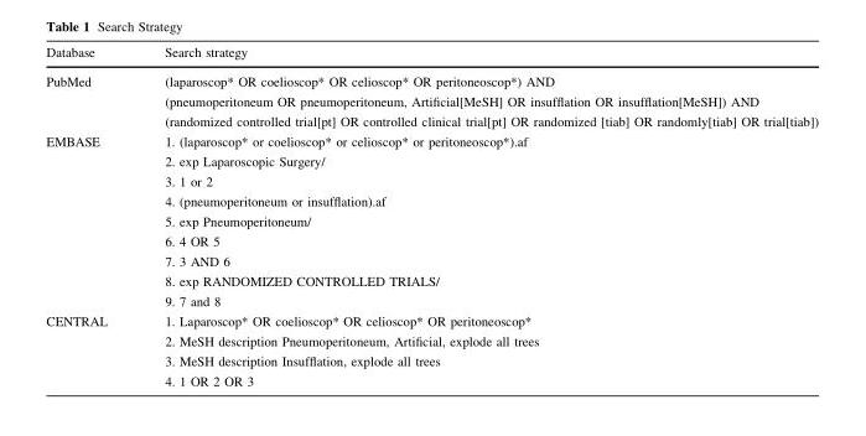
<table><thead><tr><td>Database</td><td>Search strategy</td></tr></thead><tbody><tr><td>PubMed</td><td>(laparoscop* OR coelioscop* OR celioscop* OR peritoneoscop*) AND (pneumoperitoneum OR pneumoperitoneum, Artificial[MeSH] OR insufflation OR insufflation[MeSH]) AND (randomized controlled trial[pt] OR controlled clinical trial[pt] OR randomized [tiab] OR randomly[tiab] OR trial[tiab])</td></tr><tr><td>EMBASE</td><td>1. (laparoscop* or coelioscop* or celioscop* or peritoneoscop*).af 2. exp Laparoscopic Surgery/ 3. 1 or 2 4. (pneumoperitoneum or insufflation).af 5. exp Pneumoperitoneum/ 6. 4 OR 5 7. 3 AND 6 8. exp RANDOMIZED CONTROLLED TRIALS/ 9. 7 and 8</td></tr><tr><td>CENTRAL</td><td>1. Laparoscop* OR coelioscop* OR celioscop* OR peritoneoscop* 2. MeSH description Pneumoperitoneum, Artificial, explode all trees 3. MeSH description Insufflation, explode all trees 4. 1 OR 2 OR 3</td></tr></tbody></table>